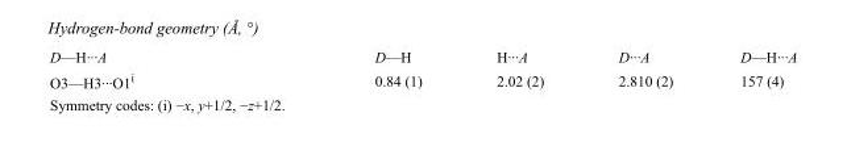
<table><tbody><tr><td>D—H···A</td><td>D—H</td><td>H···A</td><td>D···A</td><td>D—H···A</td></tr><tr><td>O3—H3···O1<sup>i</sup></td><td>0.84 (1)</td><td>2.02 (2)</td><td>2.810 (2)</td><td>157 (4)</td></tr></tbody></table>